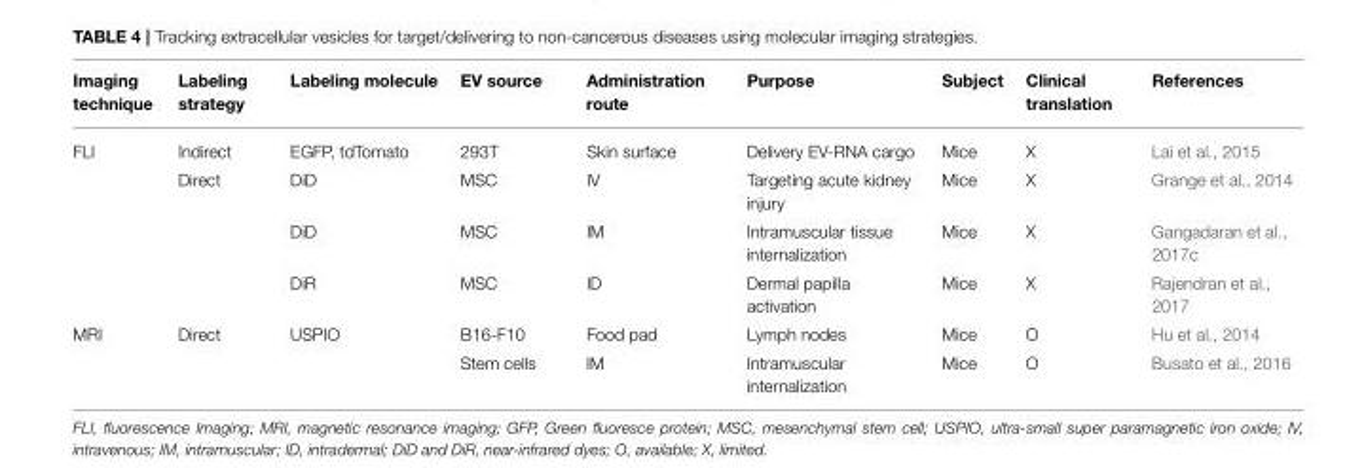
<table><thead><tr><td>Imaging technique</td><td>Labeling strategy</td><td>Labeling molecule</td><td>EV source</td><td>Administration route</td><td>Purpose</td><td>Subject</td><td>Clinical translation</td><td>References</td></tr></thead><tbody><tr><td rowspan="4">FLI</td><td>Indirect</td><td>EGFP, tdTomato</td><td>293T</td><td>Skin surface</td><td>Delivery EV-RNA cargo</td><td>Mice</td><td>X</td><td>Lai et al., 2015</td></tr><tr><td>Direct</td><td>DiD</td><td>MSC</td><td>IV</td><td>Targeting acute kidney injury</td><td>Mice</td><td>X</td><td>Grange et al., 2014</td></tr><tr><td></td><td>DiD</td><td>MSC</td><td>IM</td><td>Intramuscular tissue internalization</td><td>Mice</td><td>X</td><td>Gangadaran et al., 2017c</td></tr><tr><td></td><td>DiR</td><td>MSC</td><td>ID</td><td>Dermal papilla activation</td><td>Mice</td><td>X</td><td>Rajendran et al., 2017</td></tr><tr><td rowspan="2">MRI</td><td>Direct</td><td>USPIO</td><td>B16-F10</td><td>Food pad</td><td>Lymph nodes</td><td>Mice</td><td>O</td><td>Hu et al., 2014</td></tr><tr><td></td><td></td><td>Stem cells</td><td>IM</td><td>Intramuscular internalization</td><td>Mice</td><td>O</td><td>Busato et al., 2016</td></tr></tbody></table>